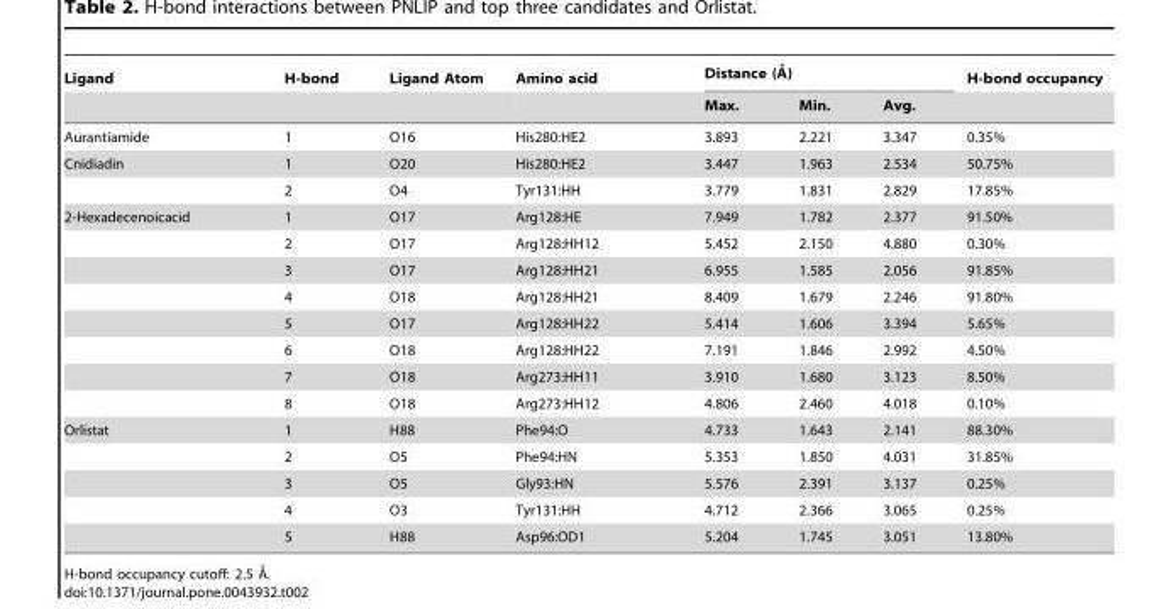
<table><thead><tr><td rowspan="2">Ligand</td><td rowspan="2">H-bond</td><td rowspan="2">Ligand Atom</td><td rowspan="2">Amino acid</td><td colspan="3">Distance (A˚ )</td><td rowspan="2">H-bond occupancy</td></tr><tr><td>Max.</td><td>Min.</td><td>Avg.</td></tr></thead><tbody><tr><td>Aurantiamide</td><td>1</td><td>O16</td><td>His280:HE2</td><td>3.893</td><td>2.221</td><td>3.347</td><td>0.35%</td></tr><tr><td rowspan="2">Cnidiadin</td><td>1</td><td>O20</td><td>His280:HE2</td><td>3.447</td><td>1.963</td><td>2.534</td><td>50.75%</td></tr><tr><td>2</td><td>O4</td><td>Tyr131:HH</td><td>3.779</td><td>1.831</td><td>2.829</td><td>17.85%</td></tr><tr><td rowspan="8">2-Hexadecenoicacid</td><td>1</td><td>O17</td><td>Arg128:HE</td><td>7.949</td><td>1.782</td><td>2.377</td><td>91.50%</td></tr><tr><td>2</td><td>O17</td><td>Arg128:HH12</td><td>5.452</td><td>2.150</td><td>4.880</td><td>0.30%</td></tr><tr><td>3</td><td>O17</td><td>Arg128:HH21</td><td>6.955</td><td>1.585</td><td>2.056</td><td>91.85%</td></tr><tr><td>4</td><td>O18</td><td>Arg128:HH21</td><td>8.409</td><td>1.679</td><td>2.246</td><td>91.80%</td></tr><tr><td>5</td><td>O17</td><td>Arg128:HH22</td><td>5.414</td><td>1.606</td><td>3.394</td><td>5.65%</td></tr><tr><td>6</td><td>O18</td><td>Arg128:HH22</td><td>7.191</td><td>1.846</td><td>2.992</td><td>4.50%</td></tr><tr><td>7</td><td>O18</td><td>Arg273:HH11</td><td>3.910</td><td>1.680</td><td>3.123</td><td>8.50%</td></tr><tr><td>8</td><td>O18</td><td>Arg273:HH12</td><td>4.806</td><td>2.460</td><td>4.018</td><td>0.10%</td></tr><tr><td rowspan="5">Orlistat</td><td>1</td><td>H88</td><td>Phe94:O</td><td>4.733</td><td>1.643</td><td>2.141</td><td>88.30%</td></tr><tr><td>2</td><td>O5</td><td>Phe94:HN</td><td>5.353</td><td>1.850</td><td>4.031</td><td>31.85%</td></tr><tr><td>3</td><td>O5</td><td>Gly93:HN</td><td>5.576</td><td>2.391</td><td>3.137</td><td>0.25%</td></tr><tr><td>4</td><td>O3</td><td>Tyr131:HH</td><td>4.712</td><td>2.366</td><td>3.065</td><td>0.25%</td></tr><tr><td>5</td><td>H88</td><td>Asp96:OD1</td><td>5.204</td><td>1.745</td><td>3.051</td><td>13.80%</td></tr></tbody></table>